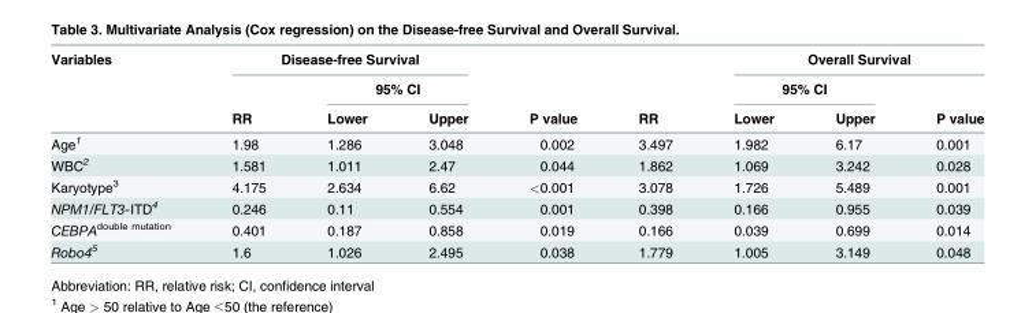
<table><thead><tr><td rowspan="3">Variables</td><td colspan="3">Disease-free Survival</td><td rowspan="3">P value</td><td rowspan="3">RR</td><td colspan="3">Overall Survival</td></tr><tr><td rowspan="2">RR</td><td colspan="2">95% CI</td><td colspan="2">95% CI</td><td rowspan="2">P value</td></tr><tr><td>Lower</td><td>Upper</td><td>Lower</td><td>Upper</td></tr></thead><tbody><tr><td>Age<sup>1</sup></td><td>1.98</td><td>1.286</td><td>3.048</td><td>0.002</td><td>3.497</td><td>1.982</td><td>6.17</td><td>0.001</td></tr><tr><td>WBC<sup>2</sup></td><td>1.581</td><td>1.011</td><td>2.47</td><td>0.044</td><td>1.862</td><td>1.069</td><td>3.242</td><td>0.028</td></tr><tr><td>Karyotype<sup>3</sup></td><td>4.175</td><td>2.634</td><td>6.62</td><td>&lt;0.001</td><td>3.078</td><td>1.726</td><td>5.489</td><td>0.001</td></tr><tr><td>NPM1/FLT3-ITD<sup>4</sup></td><td>0.246</td><td>0.11</td><td>0.554</td><td>0.001</td><td>0.398</td><td>0.166</td><td>0.955</td><td>0.039</td></tr><tr><td>CEBPA<sup>double mutation</sup></td><td>0.401</td><td>0.187</td><td>0.858</td><td>0.019</td><td>0.166</td><td>0.039</td><td>0.699</td><td>0.014</td></tr><tr><td>Robo4<sup>5</sup></td><td>1.6</td><td>1.026</td><td>2.495</td><td>0.038</td><td>1.779</td><td>1.005</td><td>3.149</td><td>0.048</td></tr></tbody></table>